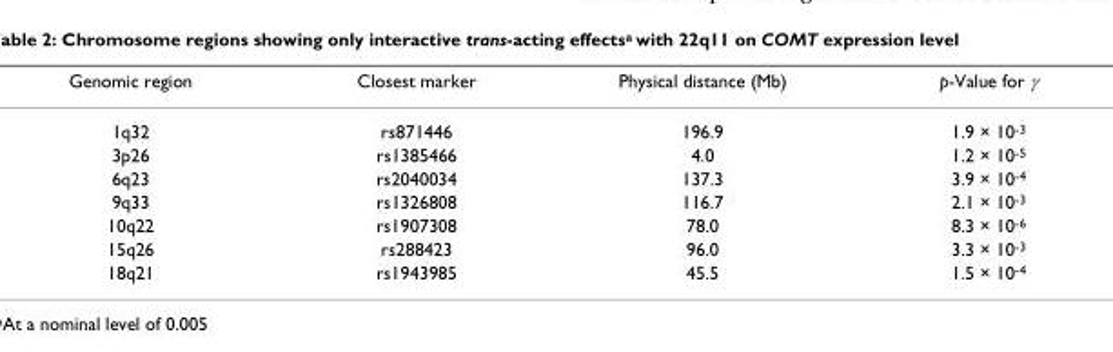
<table><thead><tr><td>Genomic region</td><td>Closest marker</td><td>Physical distance (Mb)</td><td>p-Value for γ</td></tr></thead><tbody><tr><td>1q32</td><td>rs871446</td><td>196.9</td><td>1.9 × 10<sup>-3</sup></td></tr><tr><td>3p26</td><td>rs1385466</td><td>4.0</td><td>1.2 × 10<sup>-5</sup></td></tr><tr><td>6q23</td><td>rs2040034</td><td>137.3</td><td>3.9 × 10<sup>-4</sup></td></tr><tr><td>9q33</td><td>rs1326808</td><td>116.7</td><td>2.1 × 10<sup>-3</sup></td></tr><tr><td>10q22</td><td>rs1907308</td><td>78.0</td><td>8.3 × 10<sup>-6</sup></td></tr><tr><td>15q26</td><td>rs288423</td><td>96.0</td><td>3.3 × 10<sup>-3</sup></td></tr><tr><td>18q21</td><td>rs1943985</td><td>45.5</td><td>1.5 × 10<sup>-4</sup></td></tr></tbody></table>